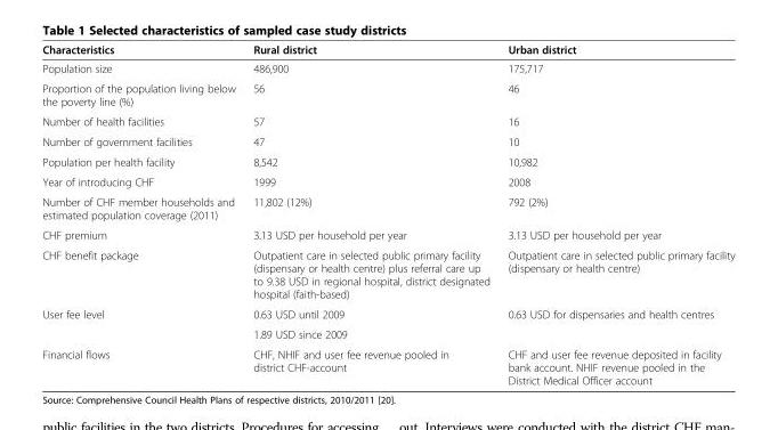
<table><thead><tr><td>Characteristics</td><td>Rural district</td><td>Urban district</td></tr></thead><tbody><tr><td>Population size</td><td>486,900</td><td>175,717</td></tr><tr><td>Proportion of the population living below the poverty line (%)</td><td>56</td><td>46</td></tr><tr><td>Number of health facilities</td><td>57</td><td>16</td></tr><tr><td>Number of government facilities</td><td>47</td><td>10</td></tr><tr><td>Population per health facility</td><td>8,542</td><td>10,982</td></tr><tr><td>Year of introducing CHF</td><td>1999</td><td>2008</td></tr><tr><td>Number of CHF member households and estimated population coverage (2011)</td><td>11,802 (12%)</td><td>792 (2%)</td></tr><tr><td>CHF premium</td><td>3.13 USD per household per year</td><td>3.13 USD per household per year</td></tr><tr><td>CHF benefit package</td><td>Outpatient care in selected public primary facility (dispensary or health centre) plus referral care up to 9.38 USD in regional hospital, district designated hospital (faith-based)</td><td>Outpatient care in selected public primary facility (dispensary or health centre)</td></tr><tr><td rowspan="2">User fee level</td><td>0.63 USD until 2009</td><td rowspan="2">0.63 USD for dispensaries and health centres</td></tr><tr><td>1.89 USD since 2009</td></tr><tr><td>Financial flows</td><td>CHF, NHIF and user fee revenue pooled in district CHF-account</td><td>CHF and user fee revenue deposited in facility bank account. NHIF revenue pooled in the District Medical Officer account</td></tr></tbody></table>